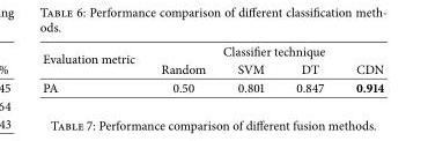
<table><thead><tr><td rowspan="2">Evaluation metric</td><td colspan="4">Classifier technique</td></tr><tr><td>Random</td><td>SVM</td><td>DT</td><td>CDN</td></tr></thead><tbody><tr><td>PA</td><td>0.50</td><td>0.801</td><td>0.847</td><td>0.914</td></tr></tbody></table>